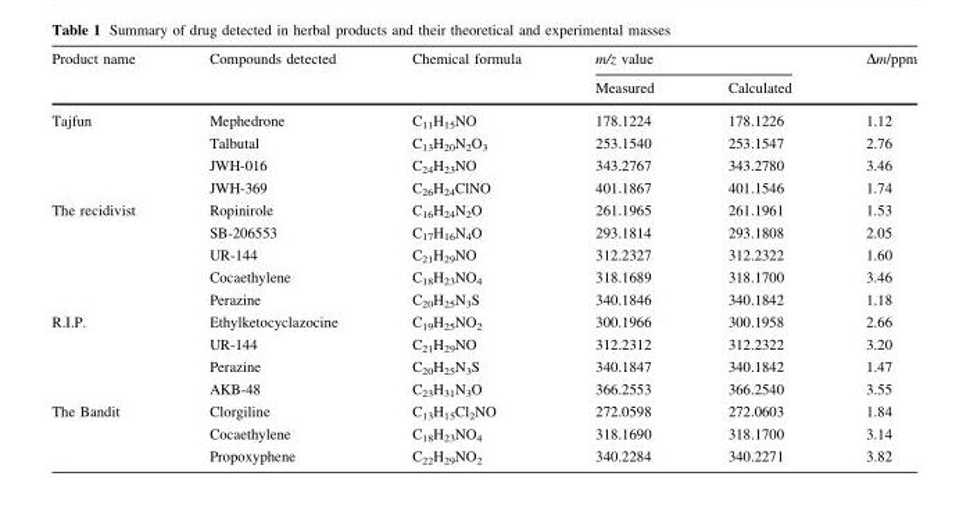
<table><thead><tr><td rowspan="2">Product name</td><td rowspan="2">Compounds detected</td><td rowspan="2">Chemical formula</td><td colspan="2">m/z value</td><td rowspan="2">Δm/ppm</td></tr><tr><td>Measured</td><td>Calculated</td></tr></thead><tbody><tr><td rowspan="4">Tajfun</td><td>Mephedrone</td><td>C<sub>11</sub>H<sub>15</sub>NO</td><td>178.1224</td><td>178.1226</td><td>1.12</td></tr><tr><td>Talbutal</td><td>C<sub>13</sub>H<sub>20</sub>N<sub>2</sub>O<sub>3</sub></td><td>253.1540</td><td>253.1547</td><td>2.76</td></tr><tr><td>JWH-016</td><td>C<sub>24</sub>H<sub>23</sub>NO</td><td>343.2767</td><td>343.2780</td><td>3.46</td></tr><tr><td>JWH-369</td><td>C<sub>26</sub>H<sub>24</sub>ClNO</td><td>401.1867</td><td>401.1546</td><td>1.74</td></tr><tr><td rowspan="5">The recidivist</td><td>Ropinirole</td><td>C<sub>16</sub>H<sub>24</sub>N<sub>2</sub>O</td><td>261.1965</td><td>261.1961</td><td>1.53</td></tr><tr><td>SB-206553</td><td>C<sub>17</sub>H<sub>16</sub>N<sub>4</sub>O</td><td>293.1814</td><td>293.1808</td><td>2.05</td></tr><tr><td>UR-144</td><td>C<sub>21</sub>H<sub>29</sub>NO</td><td>312.2327</td><td>312.2322</td><td>1.60</td></tr><tr><td>Cocaethylene</td><td>C<sub>18</sub>H<sub>23</sub>NO<sub>4</sub></td><td>318.1689</td><td>318.1700</td><td>3.46</td></tr><tr><td>Perazine</td><td>C<sub>20</sub>H<sub>25</sub>N<sub>3</sub>S</td><td>340.1846</td><td>340.1842</td><td>1.18</td></tr><tr><td rowspan="4">R.I.P.</td><td>Ethylketocyclazocine</td><td>C<sub>19</sub>H<sub>25</sub>NO<sub>2</sub></td><td>300.1966</td><td>300.1958</td><td>2.66</td></tr><tr><td>UR-144</td><td>C<sub>21</sub>H<sub>29</sub>NO</td><td>312.2312</td><td>312.2322</td><td>3.20</td></tr><tr><td>Perazine</td><td>C<sub>20</sub>H<sub>25</sub>N<sub>3</sub>S</td><td>340.1847</td><td>340.1842</td><td>1.47</td></tr><tr><td>AKB-48</td><td>C<sub>23</sub>H<sub>31</sub>N<sub>3</sub>O</td><td>366.2553</td><td>366.2540</td><td>3.55</td></tr><tr><td rowspan="3">The Bandit</td><td>Clorgiline</td><td>C<sub>13</sub>H<sub>15</sub>Cl<sub>2</sub>NO</td><td>272.0598</td><td>272.0603</td><td>1.84</td></tr><tr><td>Cocaethylene</td><td>C<sub>18</sub>H<sub>23</sub>NO<sub>4</sub></td><td>318.1690</td><td>318.1700</td><td>3.14</td></tr><tr><td>Propoxyphene</td><td>C<sub>22</sub>H<sub>29</sub>NO<sub>2</sub></td><td>340.2284</td><td>340.2271</td><td>3.82</td></tr></tbody></table>